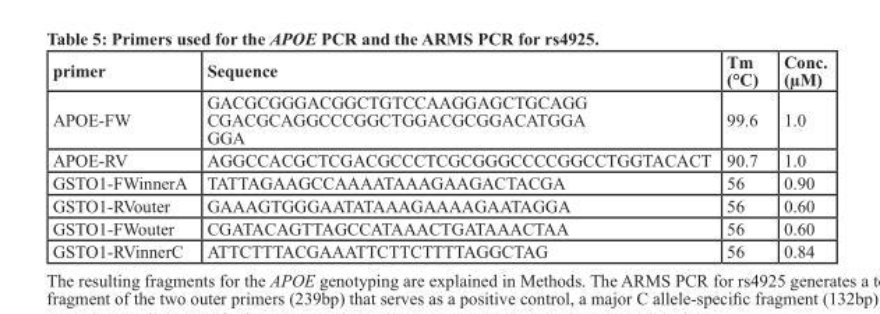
<table><thead><tr><td>primer</td><td>Sequence</td><td>Tm (°c)</td><td>Conc. (µM)</td></tr></thead><tbody><tr><td>APOE-FW</td><td>GACGCGGGACGGCTGTCCAAGGAGCTGCAGG CGACGCAGGCCCGGCTGGACGCGGACATGGA GGA</td><td>99.6</td><td>1.0</td></tr><tr><td>APOE-RV</td><td>AGGCCACGCTCGACGCCCTCGCGGGCCCCGGCCTGGTACACT</td><td>90.7</td><td>1.0</td></tr><tr><td>GSTO1-FWinnerA</td><td>TATTAGAAGCCAAAATAAAGAAGACTACGA</td><td>56</td><td>0.90</td></tr><tr><td>GSTO1-RVouter</td><td>GAAAGTGGGAATATAAAGAAAAGAATAGGA</td><td>56</td><td>0.60</td></tr><tr><td>GSTO1-FWouter</td><td>CGATACAGTTAGCCATAAACTGATAAACTAA</td><td>56</td><td>0.60</td></tr><tr><td>GSTO1-RVinnerC</td><td>ATTCTTTACGAAATTCTTCTTTTAGGCTAG</td><td>56</td><td>0.84</td></tr></tbody></table>